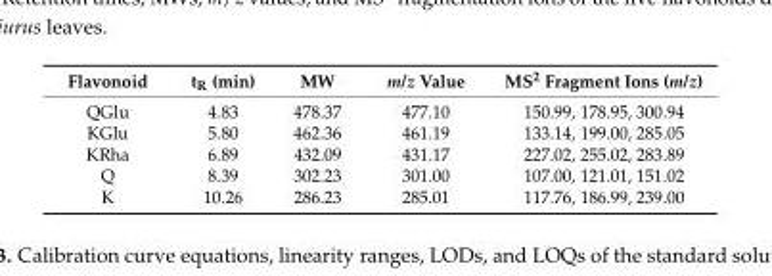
<table><thead><tr><td>Flavonoid</td><td>t<sub>R</sub> (min)</td><td>MW</td><td>m/z Value</td><td>MS<sup>2</sup> Fragment Ions (m/z)</td></tr></thead><tbody><tr><td>QGlu</td><td>4.83</td><td>478.37</td><td>477.10</td><td>150.99, 178.95, 300.94</td></tr><tr><td>KGlu</td><td>5.80</td><td>462.36</td><td>461.19</td><td>133.14, 199.00, 285.05</td></tr><tr><td>KRha</td><td>6.89</td><td>432.09</td><td>431.17</td><td>227.02, 255.02, 283.89</td></tr><tr><td>Q</td><td>8.39</td><td>302.23</td><td>301.00</td><td>107.00, 121.01, 151.02</td></tr><tr><td>K</td><td>10.26</td><td>286.23</td><td>285.01</td><td>117.76, 186.99, 239.00</td></tr></tbody></table>